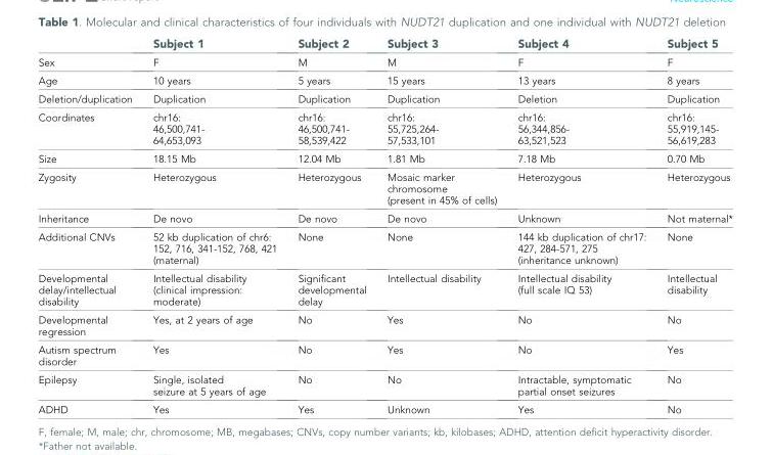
<table><thead><tr><td></td><td>Subject 1</td><td>Subject 2</td><td>Subject 3</td><td>Subject 4</td><td>Subject 5</td></tr></thead><tbody><tr><td>Sex</td><td>F</td><td>M</td><td>M</td><td>F</td><td>F</td></tr><tr><td>Age</td><td>10 years</td><td>5 years</td><td>15 years</td><td>13 years</td><td>8 years</td></tr><tr><td>Deletion/duplication</td><td>Duplication</td><td>Duplication</td><td>Duplication</td><td>Deletion</td><td>Duplication</td></tr><tr><td>Coordinates</td><td>chr16: 46,500,741- 64,653,093</td><td>chr16: 46,500,741- 58,539,422</td><td>chr16: 55,725,264- 57,533,101</td><td>chr16: 56,344,856- 63,521,523</td><td>chr16: 55,919,145- 56,619,283</td></tr><tr><td>Size</td><td>18.15 Mb</td><td>12.04 Mb</td><td>1.81 Mb</td><td>7.18 Mb</td><td>0.70 Mb</td></tr><tr><td>Zygosity</td><td>Heterozygous</td><td>Heterozygous</td><td>Mosaic marker chromosome (present in 45% of cells)</td><td>Heterozygous</td><td>Heterozygous</td></tr><tr><td>Inheritance</td><td>De novo</td><td>De novo</td><td>De novo</td><td>Unknown</td><td>Not maternal*</td></tr><tr><td>Additional CNVs</td><td>52 kb duplication of chr6: 152, 716, 341-152, 768, 421 (maternal)</td><td>None</td><td>None</td><td>144 kb duplication of chr17: 427, 284-571, 275 (inheritance unknown)</td><td>None</td></tr><tr><td>Developmental delay/intellectual disability</td><td>Intellectual disability (clinical impression: moderate)</td><td>Significant developmental delay</td><td>Intellectual disability</td><td>Intellectual disability (full scale IQ 53)</td><td>Intellectual disability</td></tr><tr><td>Developmental regression</td><td>Yes, at 2 years of age</td><td>No</td><td>Yes</td><td>No</td><td>No</td></tr><tr><td>Autism spectrum disorder</td><td>Yes</td><td>No</td><td>Yes</td><td>No</td><td>Yes</td></tr><tr><td>Epilepsy</td><td>Single, isolated seizure at 5 years of age</td><td>No</td><td>No</td><td>Intractable, symptomatic partial onset seizures</td><td>No</td></tr><tr><td>ADHD</td><td>Yes</td><td>Yes</td><td>Unknown</td><td>Yes</td><td>No</td></tr></tbody></table>